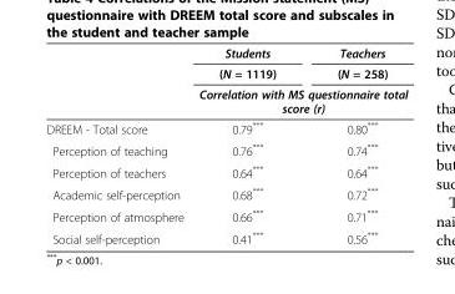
<table><thead><tr><td rowspan="3"></td><td rowspan="2">Students (N = 1119)</td><td rowspan="2">Teachers (N = 258)</td></tr><tr></tr><tr><td colspan="2">Correlation with MS questionnaire total score (r)</td></tr></thead><tbody><tr><td>DREEM - Total score</td><td>0.79***</td><td>0.80***</td></tr><tr><td>Perception of teaching</td><td>0.76***</td><td>0.74***</td></tr><tr><td>Perception of teachers</td><td>0.64***</td><td>0.64***</td></tr><tr><td>Academic self-perception</td><td>0.68***</td><td>0.72***</td></tr><tr><td>Perception of atmosphere</td><td>0.66***</td><td>0.71***</td></tr><tr><td>Social self-perception</td><td>0.41***</td><td>0.56***</td></tr></tbody></table>